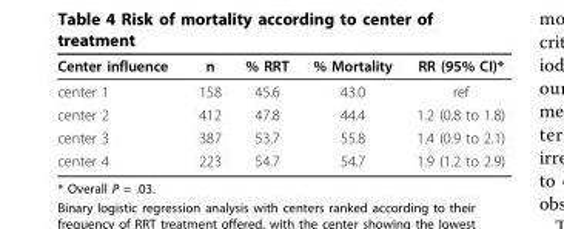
<table><thead><tr><td>Center influence</td><td>n</td><td>% RRT</td><td>% Mortality</td><td>RR (95% CI)*</td></tr></thead><tbody><tr><td>center 1</td><td>158</td><td>45.6</td><td>43.0</td><td>ref</td></tr><tr><td>center 2</td><td>412</td><td>47.8</td><td>44.4</td><td>1.2 (0.8 to 1.8)</td></tr><tr><td>center 3</td><td>387</td><td>53.7</td><td>55.8</td><td>1.4 (0.9 to 2.1)</td></tr><tr><td>center 4</td><td>223</td><td>54.7</td><td>54.7</td><td>1.9 (1.2 to 2.9)</td></tr></tbody></table>